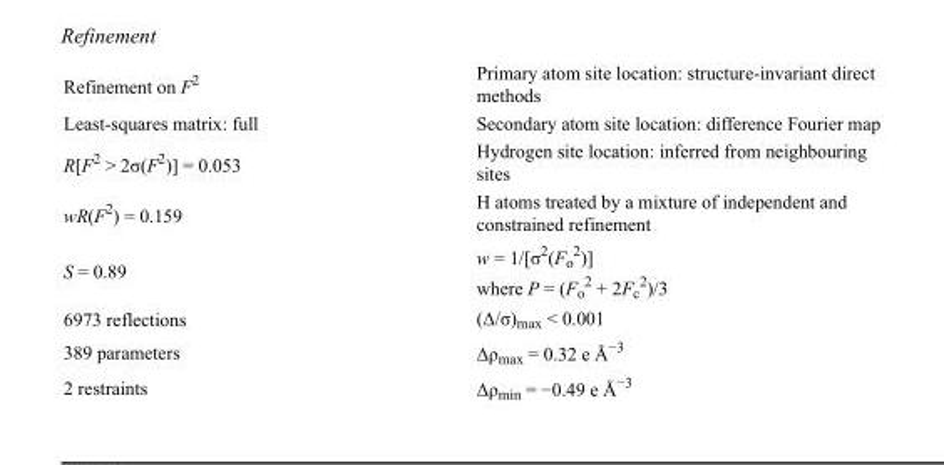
<table><tbody><tr><td>Refinement on F<sup>2</sup></td><td>Primary atom site location: structure-invariant direct methods</td></tr><tr><td>Least-squares matrix: full</td><td>Secondary atom site location: difference Fourier map</td></tr><tr><td>R[F<sup>2</sup> &gt; 2σ(F<sup>2</sup>)] = 0.053</td><td>Hydrogen site location: inferred from neighbouring sites</td></tr><tr><td>wR(F<sup>2</sup>) = 0.159</td><td>H atoms treated by a mixture of independent and constrained refinement</td></tr><tr><td>S = 0.89</td><td>w = 1/[σ<sup>2</sup>(F<sub>o</sub> <sup>2</sup>)] where P = (F<sub>o</sub> <sup>2</sup> + 2F<sub>c</sub> <sup>2</sup>)/3</td></tr><tr><td>6973 reflections</td><td>(Δ/σ)<sub>max</sub> &lt; 0.001</td></tr><tr><td>389 parameters</td><td>Δρ<sub>max</sub> = 0.32 e Å<sup>−3</sup></td></tr><tr><td>2 restraints</td><td>Δρ<sub>min</sub> = −0.49 e Å<sup>−3</sup></td></tr></tbody></table>